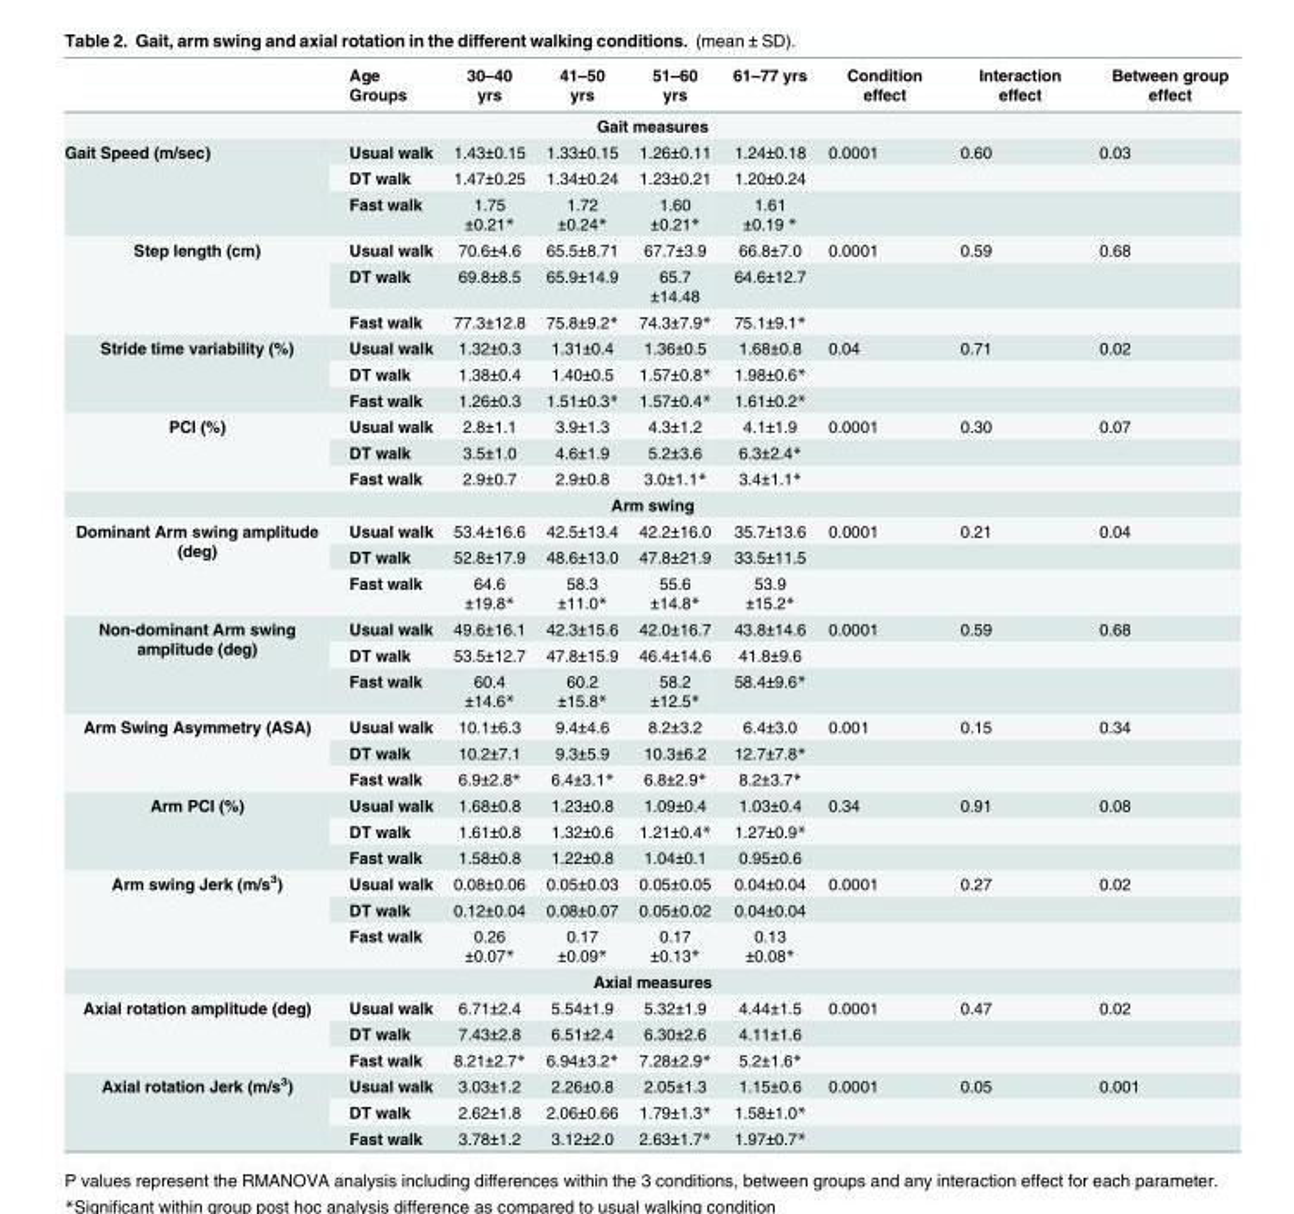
<table><thead><tr><td></td><td>Age Groups</td><td>30–40 yrs</td><td>41–50 yrs</td><td>51–60 yrs</td><td>61–77 yrs</td><td>Condition effect</td><td>Interaction effect</td><td>Between group effect</td></tr></thead><tbody><tr><td colspan="9">Gait measures</td></tr><tr><td rowspan="3">Gait Speed (m/sec)</td><td>Usual walk</td><td>1.43±0.15</td><td>1.33±0.15</td><td>1.26±0.11</td><td>1.24±0.18</td><td>0.0001</td><td>0.60</td><td>0.03</td></tr><tr><td>DT walk</td><td>1.47±0.25</td><td>1.34±0.24</td><td>1.23±0.21</td><td>1.20±0.24</td><td></td><td></td><td></td></tr><tr><td>Fast walk</td><td>1.75 ±0.21*</td><td>1.72 ±0.24*</td><td>1.60 ±0.21*</td><td>1.61 ±0.19 *</td><td></td><td></td><td></td></tr><tr><td rowspan="3">Step length (cm)</td><td>Usual walk</td><td>70.6±4.6</td><td>65.5±8.71</td><td>67.7±3.9</td><td>66.8±7.0</td><td>0.0001</td><td>0.59</td><td>0.68</td></tr><tr><td>DT walk</td><td>69.8±8.5</td><td>65.9±14.9</td><td>65.7 ±14.48</td><td>64.6±12.7</td><td></td><td></td><td></td></tr><tr><td>Fast walk</td><td>77.3±12.8</td><td>75.8±9.2*</td><td>74.3±7.9*</td><td>75.1±9.1*</td><td></td><td></td><td></td></tr><tr><td rowspan="3">Stride time variability (%)</td><td>Usual walk</td><td>1.32±0.3</td><td>1.31±0.4</td><td>1.36±0.5</td><td>1.68±0.8</td><td>0.04</td><td>0.71</td><td>0.02</td></tr><tr><td>DT walk</td><td>1.38±0.4</td><td>1.40±0.5</td><td>1.57±0.8*</td><td>1.98±0.6*</td><td></td><td></td><td></td></tr><tr><td>Fast walk</td><td>1.26±0.3</td><td>1.51±0.3*</td><td>1.57±0.4*</td><td>1.61±0.2*</td><td></td><td></td><td></td></tr><tr><td rowspan="3">PCI (%)</td><td>Usual walk</td><td>2.8±1.1</td><td>3.9±1.3</td><td>4.3±1.2</td><td>4.1±1.9</td><td>0.0001</td><td>0.30</td><td>0.07</td></tr><tr><td>DT walk</td><td>3.5±1.0</td><td>4.6±1.9</td><td>5.2±3.6</td><td>6.3±2.4*</td><td></td><td></td><td></td></tr><tr><td>Fast walk</td><td>2.9±0.7</td><td>2.9±0.8</td><td>3.0±1.1*</td><td>3.4±1.1*</td><td></td><td></td><td></td></tr><tr><td colspan="9">Arm swing</td></tr><tr><td rowspan="3">Dominant Arm swing amplitude (deg)</td><td>Usual walk</td><td>53.4±16.6</td><td>42.5±13.4</td><td>42.2±16.0</td><td>35.7±13.6</td><td>0.0001</td><td>0.21</td><td>0.04</td></tr><tr><td>DT walk</td><td>52.8±17.9</td><td>48.6±13.0</td><td>47.8±21.9</td><td>33.5±11.5</td><td></td><td></td><td></td></tr><tr><td>Fast walk</td><td>64.6 ±19.8*</td><td>58.3 ±11.0*</td><td>55.6 ±14.8*</td><td>53.9 ±15.2*</td><td></td><td></td><td></td></tr><tr><td rowspan="3">Non-dominant Arm swing amplitude (deg)</td><td>Usual walk</td><td>49.6±16.1</td><td>42.3±15.6</td><td>42.0±16.7</td><td>43.8±14.6</td><td>0.0001</td><td>0.59</td><td>0.68</td></tr><tr><td>DT walk</td><td>53.5±12.7</td><td>47.8±15.9</td><td>46.4±14.6</td><td>41.8±9.6</td><td></td><td></td><td></td></tr><tr><td>Fast walk</td><td>60.4 ±14.6*</td><td>60.2 ±15.8*</td><td>58.2 ±12.5*</td><td>58.4±9.6*</td><td></td><td></td><td></td></tr><tr><td rowspan="3">Arm Swing Asymmetry (ASA)</td><td>Usual walk</td><td>10.1±6.3</td><td>9.4±4.6</td><td>8.2±3.2</td><td>6.4±3.0</td><td>0.001</td><td>0.15</td><td>0.34</td></tr><tr><td>DT walk</td><td>10.2±7.1</td><td>9.3±5.9</td><td>10.3±6.2</td><td>12.7±7.8*</td><td></td><td></td><td></td></tr><tr><td>Fast walk</td><td>6.9±2.8*</td><td>6.4±3.1*</td><td>6.8±2.9*</td><td>8.2±3.7*</td><td></td><td></td><td></td></tr><tr><td rowspan="3">Arm PCI (%)</td><td>Usual walk</td><td>1.68±0.8</td><td>1.23±0.8</td><td>1.09±0.4</td><td>1.03±0.4</td><td>0.34</td><td>0.91</td><td>0.08</td></tr><tr><td>DT walk</td><td>1.61±0.8</td><td>1.32±0.6</td><td>1.21±0.4*</td><td>1.27±0.9*</td><td></td><td></td><td></td></tr><tr><td>Fast walk</td><td>1.58±0.8</td><td>1.22±0.8</td><td>1.04±0.1</td><td>0.95±0.6</td><td></td><td></td><td></td></tr><tr><td rowspan="3">Arm swing Jerk (m/s<sup>3</sup>)</td><td>Usual walk</td><td>0.08±0.06</td><td>0.05±0.03</td><td>0.05±0.05</td><td>0.04±0.04</td><td>0.0001</td><td>0.27</td><td>0.02</td></tr><tr><td>DT walk</td><td>0.12±0.04</td><td>0.08±0.07</td><td>0.05±0.02</td><td>0.04±0.04</td><td></td><td></td><td></td></tr><tr><td>Fast walk</td><td>0.26 ±0.07*</td><td>0.17 ±0.09*</td><td>0.17 ±0.13*</td><td>0.13 ±0.08*</td><td></td><td></td><td></td></tr><tr><td colspan="9">Axial measures</td></tr><tr><td rowspan="3">Axial rotation amplitude (deg)</td><td>Usual walk</td><td>6.71±2.4</td><td>5.54±1.9</td><td>5.32±1.9</td><td>4.44±1.5</td><td>0.0001</td><td>0.47</td><td>0.02</td></tr><tr><td>DT walk</td><td>7.43±2.8</td><td>6.51±2.4</td><td>6.30±2.6</td><td>4.11±1.6</td><td></td><td></td><td></td></tr><tr><td>Fast walk</td><td>8.21±2.7*</td><td>6.94±3.2*</td><td>7.28±2.9*</td><td>5.2±1.6*</td><td></td><td></td><td></td></tr><tr><td rowspan="3">Axial rotation Jerk (m/s<sup>3</sup>)</td><td>Usual walk</td><td>3.03±1.2</td><td>2.26±0.8</td><td>2.05±1.3</td><td>1.15±0.6</td><td>0.0001</td><td>0.05</td><td>0.001</td></tr><tr><td>DT walk</td><td>2.62±1.8</td><td>2.06±0.66</td><td>1.79±1.3*</td><td>1.58±1.0*</td><td></td><td></td><td></td></tr><tr><td>Fast walk</td><td>3.78±1.2</td><td>3.12±2.0</td><td>2.63±1.7*</td><td>1.97±0.7*</td><td></td><td></td><td></td></tr></tbody></table>